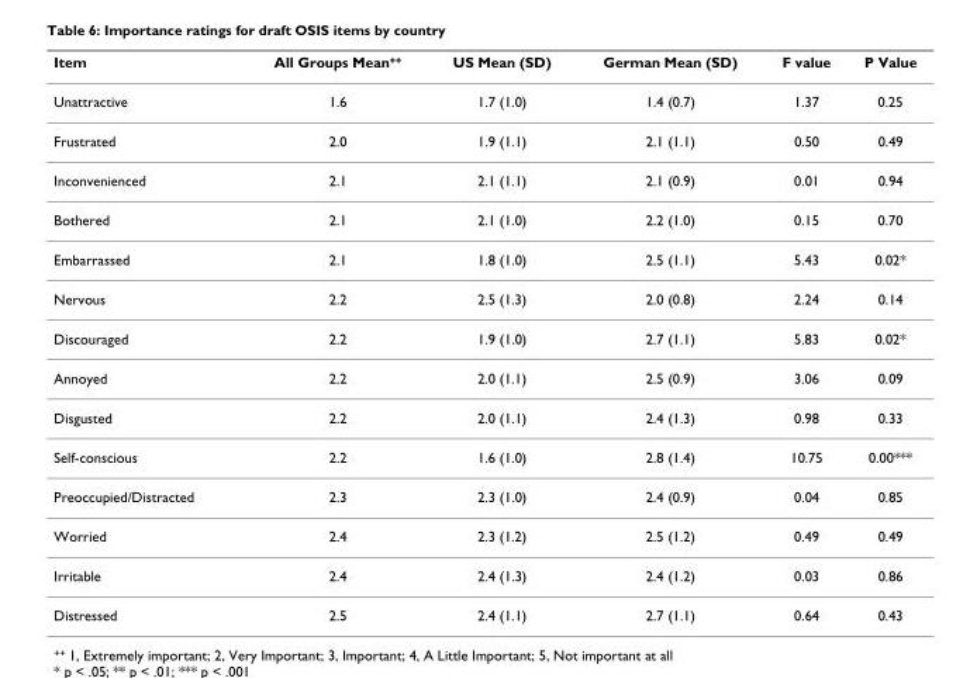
<table><thead><tr><td>Item</td><td>All Groups Mean<sup>++</sup></td><td>US Mean (SD)</td><td>German Mean (SD)</td><td>F value</td><td>P Value</td></tr></thead><tbody><tr><td>Unattractive</td><td>1.6</td><td>1.7 (1.0)</td><td>1.4 (0.7)</td><td>1.37</td><td>0.25</td></tr><tr><td>Frustrated</td><td>2.0</td><td>1.9 (1.1)</td><td>2.1 (1.1)</td><td>0.50</td><td>0.49</td></tr><tr><td>Inconvenienced</td><td>2.1</td><td>2.1 (1.1)</td><td>2.1 (0.9)</td><td>0.01</td><td>0.94</td></tr><tr><td>Bothered</td><td>2.1</td><td>2.1 (1.0)</td><td>2.2 (1.0)</td><td>0.15</td><td>0.70</td></tr><tr><td>Embarrassed</td><td>2.1</td><td>1.8 (1.0)</td><td>2.5 (1.1)</td><td>5.43</td><td>0.02*</td></tr><tr><td>Nervous</td><td>2.2</td><td>2.5 (1.3)</td><td>2.0 (0.8)</td><td>2.24</td><td>0.14</td></tr><tr><td>Discouraged</td><td>2.2</td><td>1.9 (1.0)</td><td>2.7 (1.1)</td><td>5.83</td><td>0.02*</td></tr><tr><td>Annoyed</td><td>2.2</td><td>2.0 (1.1)</td><td>2.5 (0.9)</td><td>3.06</td><td>0.09</td></tr><tr><td>Disgusted</td><td>2.2</td><td>2.0 (1.1)</td><td>2.4 (1.3)</td><td>0.98</td><td>0.33</td></tr><tr><td>Self-conscious</td><td>2.2</td><td>1.6 (1.0)</td><td>2.8 (1.4)</td><td>10.75</td><td>0.00***</td></tr><tr><td>Preoccupied/Distracted</td><td>2.3</td><td>2.3 (1.0)</td><td>2.4 (0.9)</td><td>0.04</td><td>0.85</td></tr><tr><td>Worried</td><td>2.4</td><td>2.3 (1.2)</td><td>2.5 (1.2)</td><td>0.49</td><td>0.49</td></tr><tr><td>Irritable</td><td>2.4</td><td>2.4 (1.3)</td><td>2.4 (1.2)</td><td>0.03</td><td>0.86</td></tr><tr><td>Distressed</td><td>2.5</td><td>2.4 (1.1)</td><td>2.7 (1.1)</td><td>0.64</td><td>0.43</td></tr></tbody></table>